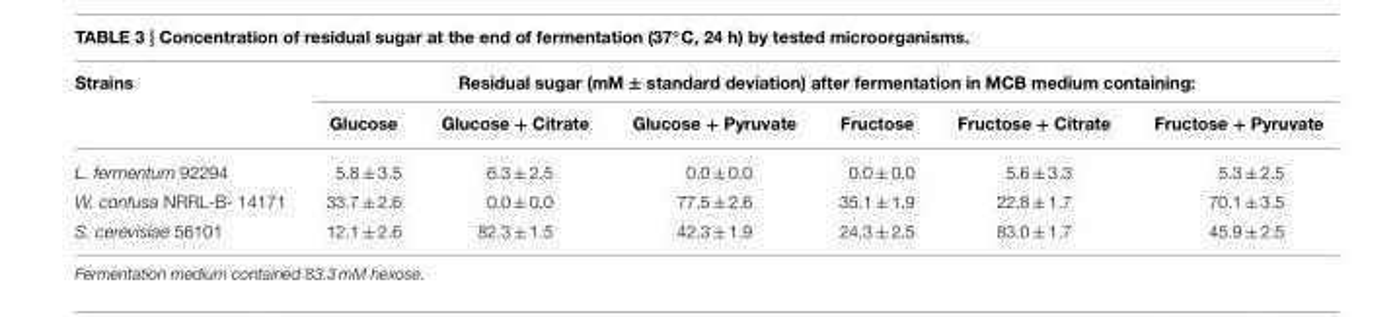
<table><thead><tr><td rowspan="2">Strains</td><td colspan="6">Residual sugar (mM ± standard deviation) after fermentation in MCB medium containing:</td></tr><tr><td>Glucose</td><td>Glucose + Citrate</td><td>Glucose + Pyruvate</td><td>Fructose</td><td>Fructose + Citrate</td><td>Fructose + Pyruvate</td></tr></thead><tbody><tr><td>L. fermentum 92294</td><td>5.8 ± 3.5</td><td>6.3 ± 2.5</td><td>0.0 ± 0.0</td><td>0.0 ± 0.0</td><td>5.6 ± 3.3</td><td>5.3 ± 2.5</td></tr><tr><td>W. confusa NRRL-B- 14171</td><td>33.7 ± 2.6</td><td>0.0 ± 0.0</td><td>77.5 ± 2.6</td><td>35.1 ± 1.9</td><td>22.8 ± 1.7</td><td>70.1 ± 3.5</td></tr><tr><td>S. cerevisiae 56101</td><td>12.1 ± 2.6</td><td>82.3 ± 1.5</td><td>42.3 ± 1.9</td><td>24.3 ± 2.5</td><td>83.0 ± 1.7</td><td>45.9 ± 2.5</td></tr></tbody></table>